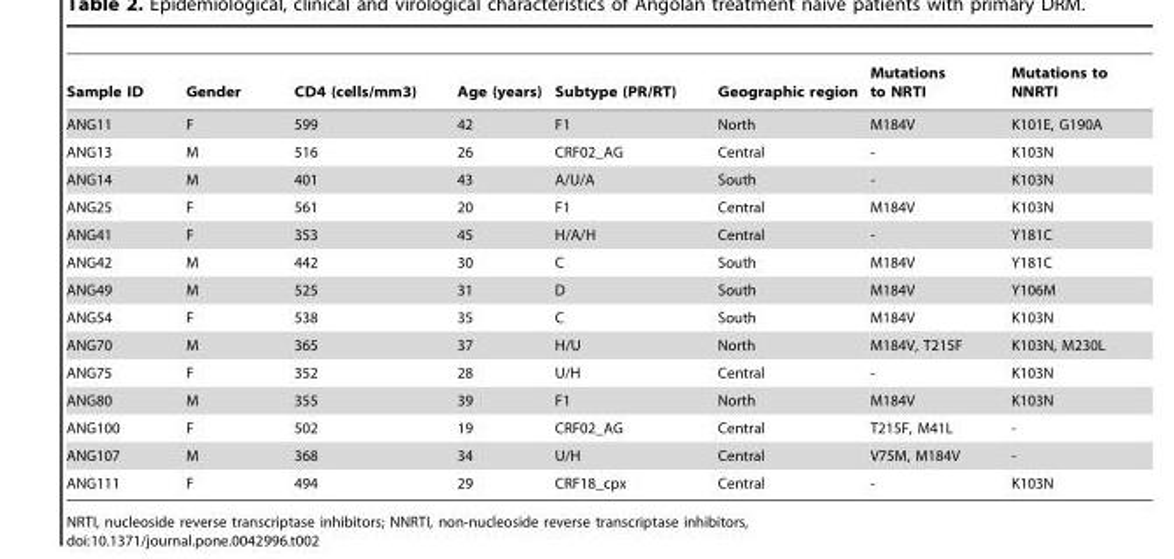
<table><thead><tr><td>Sample ID</td><td>Gender</td><td>CD4 (cells/mm3)</td><td>Age (years)</td><td>Subtype (PR/RT)</td><td>Geographic region</td><td>Mutations to NRTI</td><td>Mutations to NNRTI</td></tr></thead><tbody><tr><td>ANG11</td><td>F</td><td>599</td><td>42</td><td>F1</td><td>North</td><td>M184V</td><td>K101E, G190A</td></tr><tr><td>ANG13</td><td>M</td><td>516</td><td>26</td><td>CRF02_AG</td><td>Central</td><td>-</td><td>K103N</td></tr><tr><td>ANG14</td><td>M</td><td>401</td><td>43</td><td>A/U/A</td><td>South</td><td>-</td><td>K103N</td></tr><tr><td>ANG25</td><td>F</td><td>561</td><td>20</td><td>F1</td><td>Central</td><td>M184V</td><td>K103N</td></tr><tr><td>ANG41</td><td>F</td><td>353</td><td>45</td><td>H/A/H</td><td>Central</td><td>-</td><td>Y181C</td></tr><tr><td>ANG42</td><td>M</td><td>442</td><td>30</td><td>C</td><td>South</td><td>M184V</td><td>Y181C</td></tr><tr><td>ANG49</td><td>M</td><td>525</td><td>31</td><td>D</td><td>South</td><td>M184V</td><td>Y106M</td></tr><tr><td>ANG54</td><td>F</td><td>538</td><td>35</td><td>C</td><td>South</td><td>M184V</td><td>K103N</td></tr><tr><td>ANG70</td><td>M</td><td>365</td><td>37</td><td>H/U</td><td>North</td><td>M184V, T215F</td><td>K103N, M230L</td></tr><tr><td>ANG75</td><td>F</td><td>352</td><td>28</td><td>U/H</td><td>Central</td><td>-</td><td>K103N</td></tr><tr><td>ANG80</td><td>M</td><td>355</td><td>39</td><td>F1</td><td>North</td><td>M184V</td><td>K103N</td></tr><tr><td>ANG100</td><td>F</td><td>502</td><td>19</td><td>CRF02_AG</td><td>Central</td><td>T215F, M41L</td><td>-</td></tr><tr><td>ANG107</td><td>M</td><td>368</td><td>34</td><td>U/H</td><td>Central</td><td>V75M, M184V</td><td>-</td></tr><tr><td>ANG111</td><td>F</td><td>494</td><td>29</td><td>CRF18_cpx</td><td>Central</td><td>-</td><td>K103N</td></tr></tbody></table>